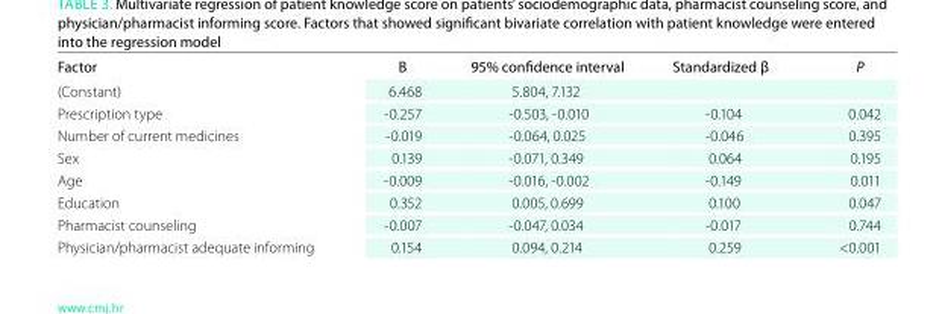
<table><thead><tr><td>Factor</td><td>b</td><td>95% confidence interval</td><td>standardized β</td><td>P</td></tr></thead><tbody><tr><td>(Constant)</td><td>6.468</td><td>5.804, 7.132</td><td></td><td></td></tr><tr><td>Prescription type</td><td>-0.257</td><td>-0.503, -0.010</td><td>-0.104</td><td>0.042</td></tr><tr><td>Number of current medicines</td><td>-0.019</td><td>-0.064, 0.025</td><td>-0.046</td><td>0.395</td></tr><tr><td>Sex</td><td>0.139</td><td>-0.071, 0.349</td><td>0.064</td><td>0.195</td></tr><tr><td>Age</td><td>-0.009</td><td>-0.016, -0.002</td><td>-0.149</td><td>0.011</td></tr><tr><td>Education</td><td>0.352</td><td>0.005, 0.699</td><td>0.100</td><td>0.047</td></tr><tr><td>Pharmacist counseling</td><td>-0.007</td><td>-0.047, 0.034</td><td>-0.017</td><td>0.744</td></tr><tr><td>Physician/pharmacist adequate informing</td><td>0.154</td><td>0.094, 0.214</td><td>0.259</td><td>&lt;0.001</td></tr></tbody></table>